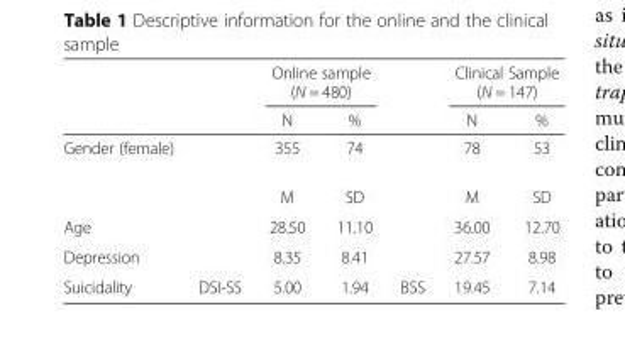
<table><thead><tr><td rowspan="2"></td><td rowspan="2"></td><td colspan="2">Online sample (N = 480)</td><td rowspan="2"></td><td colspan="2">Clinical Sample (N = 147)</td></tr><tr><td>N</td><td>%</td><td>N</td><td>%</td></tr></thead><tbody><tr><td rowspan="2">Gender (female)</td><td></td><td>355</td><td>74</td><td></td><td>78</td><td>53</td></tr><tr><td></td><td>M</td><td>SD</td><td></td><td>M</td><td>SD</td></tr><tr><td>Age</td><td></td><td>28.50</td><td>11.10</td><td></td><td>36.00</td><td>12.70</td></tr><tr><td>Depression</td><td></td><td>8.35</td><td>8.41</td><td></td><td>27.57</td><td>8.98</td></tr><tr><td>Suicidality</td><td>DSI-SS</td><td>5.00</td><td>1.94</td><td>BSS</td><td>19.45</td><td>7.14</td></tr></tbody></table>